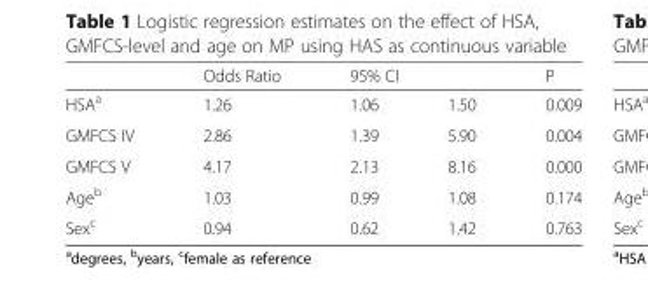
<table><thead><tr><td rowspan="2">HSA<sup>a</sup></td><td rowspan="2">Odds Ratio 1.26</td><td colspan="2">95% CI</td><td rowspan="2">P 0.009</td></tr><tr><td>1.06</td><td>1.50</td></tr></thead><tbody><tr><td>GMFCS IV</td><td>2.86</td><td>1.39</td><td>5.90</td><td>0.004</td></tr><tr><td>GMFCS V</td><td>4.17</td><td>2.13</td><td>8.16</td><td>0.000</td></tr><tr><td>Age<sup>b</sup></td><td>1.03</td><td>0.99</td><td>1.08</td><td>0.174</td></tr><tr><td>Sex<sup>c</sup></td><td>0.94</td><td>0.62</td><td>1.42</td><td>0.763</td></tr></tbody></table>